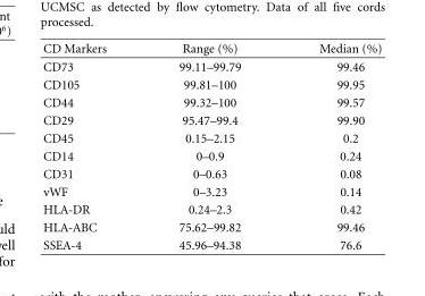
<table><thead><tr><td>CD Markers</td><td>Range (%)</td><td>Median (%)</td></tr></thead><tbody><tr><td>CD73</td><td>99.11–99.79</td><td>99.46</td></tr><tr><td>CD105</td><td>99.81–100</td><td>99.95</td></tr><tr><td>CD44</td><td>99.32–100</td><td>99.57</td></tr><tr><td>CD29</td><td>95.47–99.4</td><td>99.90</td></tr><tr><td>CD45</td><td>0.15–2.15</td><td>0.2</td></tr><tr><td>CD14</td><td>0–0.9</td><td>0.24</td></tr><tr><td>CD31</td><td>0–0.63</td><td>0.08</td></tr><tr><td>vWF</td><td>0–3.23</td><td>0.14</td></tr><tr><td>HLA-DR</td><td>0.24–2.3</td><td>0.42</td></tr><tr><td>HLA-ABC</td><td>75.62–99.82</td><td>99.46</td></tr><tr><td>SSEA-4</td><td>45.96–94.38</td><td>76.6</td></tr></tbody></table>